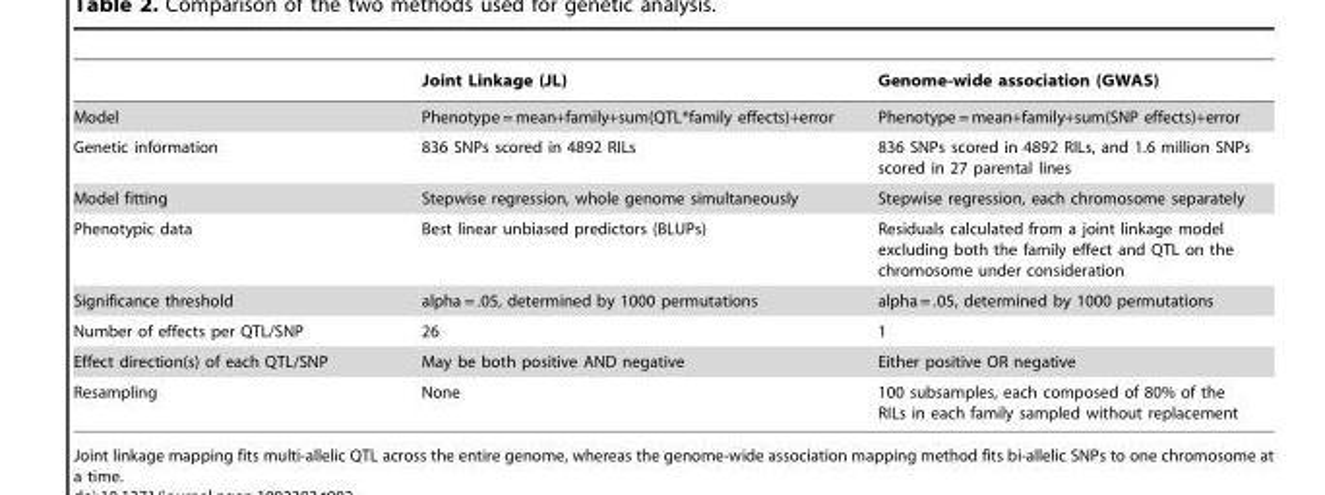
<table><thead><tr><td></td><td>Joint Linkage (JL)</td><td>Genome-wide association (GWAS)</td></tr></thead><tbody><tr><td>Model</td><td>Phenotype = mean+family+sum(QTL*family effects)+error</td><td>Phenotype = mean+family+sum(SNP effects)+error</td></tr><tr><td>Genetic information</td><td>836 SNPs scored in 4892 RILs</td><td>836 SNPs scored in 4892 RILs, and 1.6 million SNPs scored in 27 parental lines</td></tr><tr><td>Model fitting</td><td>Stepwise regression, whole genome simultaneously</td><td>Stepwise regression, each chromosome separately</td></tr><tr><td>Phenotypic data</td><td>Best linear unbiased predictors (BLUPs)</td><td>Residuals calculated from a joint linkage model excluding both the family effect and QTL on the chromosome under consideration</td></tr><tr><td>Significance threshold</td><td>alpha = .05, determined by 1000 permutations</td><td>alpha = .05, determined by 1000 permutations</td></tr><tr><td>Number of effects per QTL/SNP</td><td>26</td><td>1</td></tr><tr><td>Effect direction(s) of each QTL/SNP</td><td>May be both positive AND negative</td><td>Either positive OR negative</td></tr><tr><td>Resampling</td><td>None</td><td>100 subsamples, each composed of 80% of the RILs in each family sampled without replacement</td></tr></tbody></table>